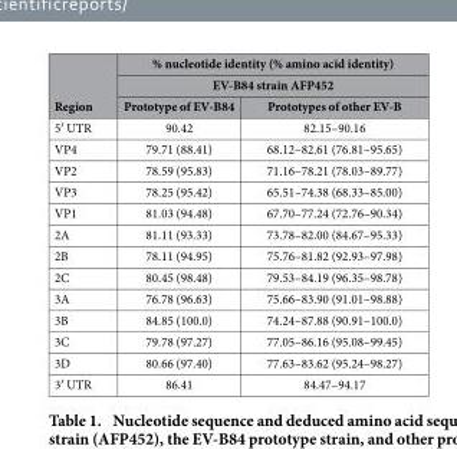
<table><thead><tr><td rowspan="3">Region</td><td rowspan="2" colspan="2">% nucleotide identity (% amino acid identity) EV-B84 strain AFP452</td></tr><tr></tr><tr><td>Prototype of EV-B84</td><td>Prototypes of other EV-B</td></tr></thead><tbody><tr><td>5′ UTR</td><td>90.42</td><td>82.15–90.16</td></tr><tr><td>VP4</td><td>79.71 (88.41)</td><td>68.12–82.61 (76.81–95.65)</td></tr><tr><td>VP2</td><td>78.59 (95.83)</td><td>71.16–78.21 (78.03–89.77)</td></tr><tr><td>VP3</td><td>78.25 (95.42)</td><td>65.51–74.38 (68.33–85.00)</td></tr><tr><td>VP1</td><td>81.03 (94.48)</td><td>67.70–77.24 (72.76–90.34)</td></tr><tr><td>2A</td><td>81.11 (93.33)</td><td>73.78–82.00 (84.67–95.33)</td></tr><tr><td>2B</td><td>78.11 (94.95)</td><td>75.76–81.82 (92.93–97.98)</td></tr><tr><td>2C</td><td>80.45 (98.48)</td><td>79.53–84.19 (96.35–98.78)</td></tr><tr><td>3A</td><td>76.78 (96.63)</td><td>75.66–83.90 (91.01–98.88)</td></tr><tr><td>3B</td><td>84.85 (100.0)</td><td>74.24–87.88 (90.91–100.0)</td></tr><tr><td>3C</td><td>79.78 (97.27)</td><td>77.05–86.16 (95.08–99.45)</td></tr><tr><td>3D</td><td>80.66 (97.40)</td><td>77.63–83.62 (95.24–98.27)</td></tr><tr><td>3′ UTR</td><td>86.41</td><td>84.47–94.17</td></tr></tbody></table>